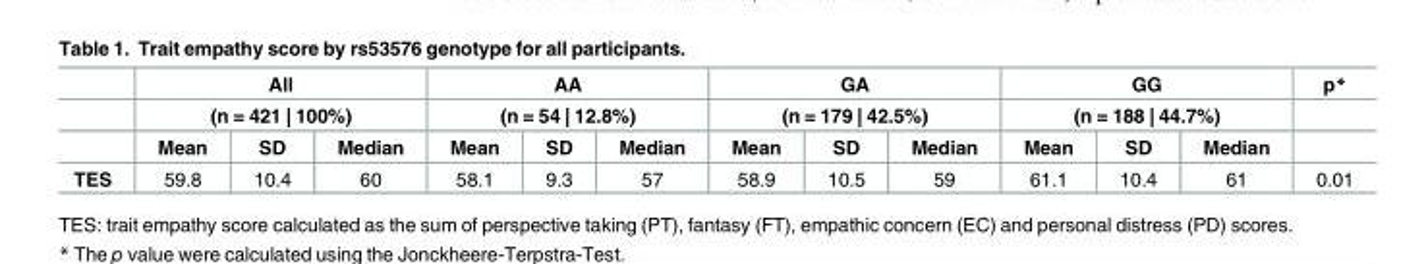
<table><thead><tr><td rowspan="3"></td><td rowspan="2" colspan="3">All (n = 421 | 100%)</td><td rowspan="2" colspan="3">AA (n = 54 | 12.8%)</td><td rowspan="2" colspan="3">GA (n = 179 | 42.5%)</td><td rowspan="2" colspan="3">GG (n = 188 | 44.7%)</td><td rowspan="3">p*</td></tr><tr></tr><tr><td>Mean</td><td>SD</td><td>Median</td><td>Mean</td><td>SD</td><td>Median</td><td>Mean</td><td>SD</td><td>Median</td><td>Mean</td><td>SD</td><td>Median</td></tr></thead><tbody><tr><td>TES</td><td>59.8</td><td>10.4</td><td>60</td><td>58.1</td><td>9.3</td><td>57</td><td>58.9</td><td>10.5</td><td>59</td><td>61.1</td><td>10.4</td><td>61</td><td>0.01</td></tr></tbody></table>